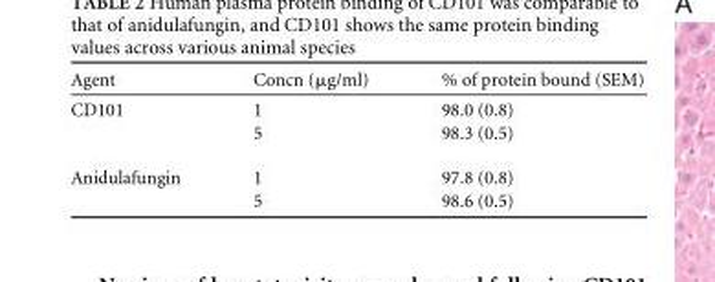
<table><thead><tr><td>Agent</td><td>Concn (μg/ml)</td><td>% of protein bound (SEM)</td></tr></thead><tbody><tr><td rowspan="2">CD101</td><td>1</td><td>98.0 (0.8)</td></tr><tr><td>5</td><td>98.3 (0.5)</td></tr><tr><td rowspan="2">Anidulafungin</td><td>1</td><td>97.8 (0.8)</td></tr><tr><td>5</td><td>98.6 (0.5)</td></tr></tbody></table>